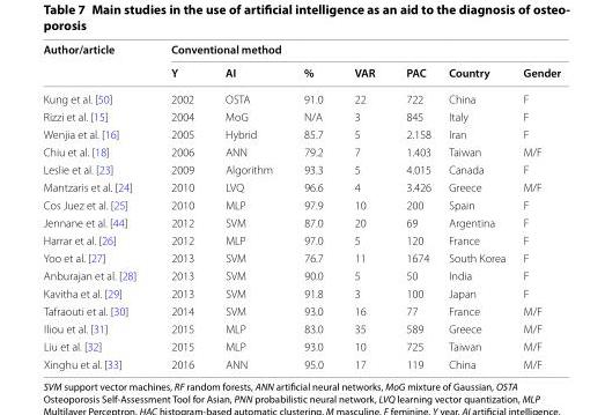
<table><thead><tr><td rowspan="2">Author/article</td><td colspan="7">Conventional method</td></tr><tr><td>Y</td><td>AI</td><td>%</td><td>VAR</td><td>PAC</td><td>Country</td><td>Gender</td></tr></thead><tbody><tr><td>Kung et al. [50]</td><td>2002</td><td>OSTA</td><td>91.0</td><td>22</td><td>722</td><td>China</td><td>F</td></tr><tr><td>Rizzi et al. [15]</td><td>2004</td><td>MoG</td><td>N/A</td><td>3</td><td>845</td><td>Italy</td><td>F</td></tr><tr><td>Wenjia et al. [16]</td><td>2005</td><td>Hybrid</td><td>85.7</td><td>5</td><td>2.158</td><td>Iran</td><td>F</td></tr><tr><td>Chiu et al. [18]</td><td>2006</td><td>ANN</td><td>79.2</td><td>7</td><td>1.403</td><td>Taiwan</td><td>M/F</td></tr><tr><td>Leslie et al. [23]</td><td>2009</td><td>Algorithm</td><td>93.3</td><td>5</td><td>4.015</td><td>Canada</td><td>F</td></tr><tr><td>Mantzaris et al. [24]</td><td>2010</td><td>LVQ</td><td>96.6</td><td>4</td><td>3.426</td><td>Greece</td><td>M/F</td></tr><tr><td>Cos Juez et al. [25]</td><td>2010</td><td>MLP</td><td>97.9</td><td>10</td><td>200</td><td>Spain</td><td>F</td></tr><tr><td>Jennane et al. [44]</td><td>2012</td><td>SVM</td><td>87.0</td><td>20</td><td>69</td><td>Argentina</td><td>F</td></tr><tr><td>Harrar et al. [26]</td><td>2012</td><td>MLP</td><td>97.0</td><td>5</td><td>120</td><td>France</td><td>F</td></tr><tr><td>Yoo et al. [27]</td><td>2013</td><td>SVM</td><td>76.7</td><td>11</td><td>1674</td><td>South Korea</td><td>F</td></tr><tr><td>Anburajan et al. [28]</td><td>2013</td><td>SVM</td><td>90.0</td><td>5</td><td>50</td><td>India</td><td>F</td></tr><tr><td>Kavitha et al. [29]</td><td>2013</td><td>SVM</td><td>91.8</td><td>3</td><td>100</td><td>Japan</td><td>F</td></tr><tr><td>Tafraouti et al. [30]</td><td>2014</td><td>SVM</td><td>93.0</td><td>16</td><td>77</td><td>France</td><td>M/F</td></tr><tr><td>Iliou et al. [31]</td><td>2015</td><td>MLP</td><td>83.0</td><td>35</td><td>589</td><td>Greece</td><td>M/F</td></tr><tr><td>Liu et al. [32]</td><td>2015</td><td>MLP</td><td>93.0</td><td>10</td><td>725</td><td>Taiwan</td><td>M/F</td></tr><tr><td>Xinghu et al. [33]</td><td>2016</td><td>ANN</td><td>95.0</td><td>17</td><td>119</td><td>China</td><td>M/F</td></tr></tbody></table>